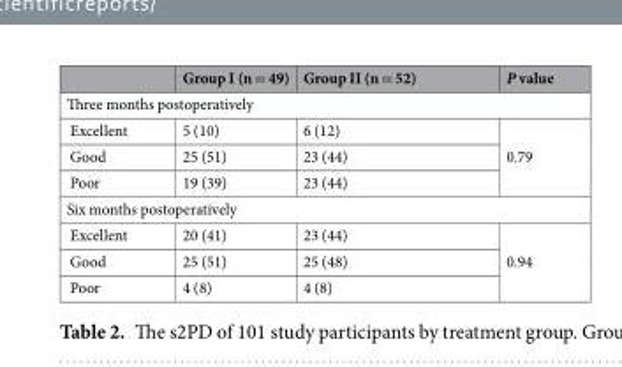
<table><thead><tr><td></td><td>Group I (n = 49)</td><td>Group II (n = 52)</td><td>P value</td></tr></thead><tbody><tr><td colspan="4">Three months postoperatively</td></tr><tr><td>Excellent</td><td>5 (10)</td><td>6 (12)</td><td rowspan="3">0.79</td></tr><tr><td>Good</td><td>25 (51)</td><td>23 (44)</td></tr><tr><td>Poor</td><td>19 (39)</td><td>23 (44)</td></tr><tr><td colspan="4">Six months postoperatively</td></tr><tr><td>Excellent</td><td>20 (41)</td><td>23 (44)</td><td rowspan="3">0.94</td></tr><tr><td>Good</td><td>25 (51)</td><td>25 (48)</td></tr><tr><td>Poor</td><td>4 (8)</td><td>4 (8)</td></tr></tbody></table>